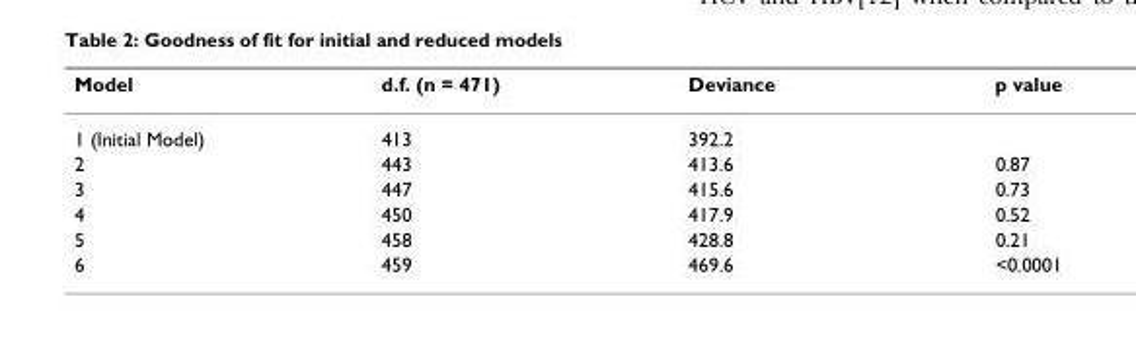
<table><thead><tr><td>Model</td><td>d.f. (n = 471)</td><td>Deviance</td><td>p value</td></tr></thead><tbody><tr><td>1 (Initial Model)</td><td>413</td><td>392.2</td><td></td></tr><tr><td>2</td><td>443</td><td>413.6</td><td>0.87</td></tr><tr><td>3</td><td>447</td><td>415.6</td><td>0.73</td></tr><tr><td>4</td><td>450</td><td>417.9</td><td>0.52</td></tr><tr><td>5</td><td>458</td><td>428.8</td><td>0.21</td></tr><tr><td>6</td><td>459</td><td>469.6</td><td>&lt;0.0001</td></tr></tbody></table>